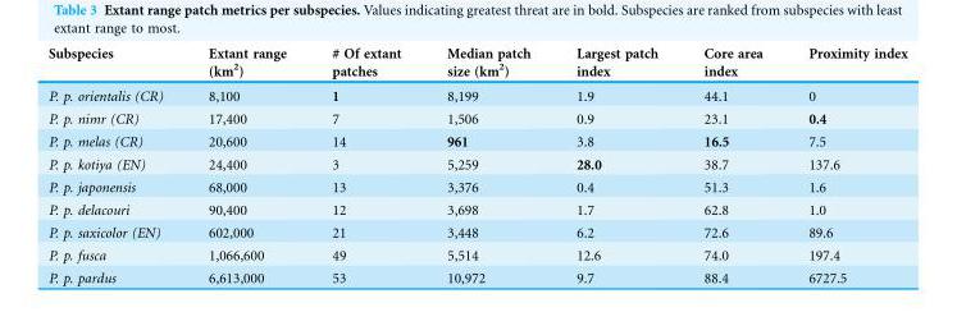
<table><thead><tr><td>Subspecies</td><td>Extant range (km<sup>2</sup>)</td><td># Of extant patches</td><td>Median patch size (km<sup>2</sup>)</td><td>Largest patch index</td><td>Core area index</td><td>Proximity index</td></tr></thead><tbody><tr><td>P. p. orientalis (CR)</td><td>8,100</td><td>1</td><td>8,199</td><td>1.9</td><td>44.1</td><td>0</td></tr><tr><td>P. p. nimr (CR)</td><td>17,400</td><td>7</td><td>1,506</td><td>0.9</td><td>23.1</td><td>0.4</td></tr><tr><td>P. p. melas (CR)</td><td>20,600</td><td>14</td><td>961</td><td>3.8</td><td>16.5</td><td>7.5</td></tr><tr><td>P. p. kotiya (EN)</td><td>24,400</td><td>3</td><td>5,259</td><td>28.0</td><td>38.7</td><td>137.6</td></tr><tr><td>P. p. japonensis</td><td>68,000</td><td>13</td><td>3,376</td><td>0.4</td><td>51.3</td><td>1.6</td></tr><tr><td>P. p. delacouri</td><td>90,400</td><td>12</td><td>3,698</td><td>1.7</td><td>62.8</td><td>1.0</td></tr><tr><td>P. p. saxicolor (EN)</td><td>602,000</td><td>21</td><td>3,448</td><td>6.2</td><td>72.6</td><td>89.6</td></tr><tr><td>P. p. fusca</td><td>1,066,600</td><td>49</td><td>5,514</td><td>12.6</td><td>74.0</td><td>197.4</td></tr><tr><td>P. p. pardus</td><td>6,613,000</td><td>53</td><td>10,972</td><td>9.7</td><td>88.4</td><td>6727.5</td></tr></tbody></table>